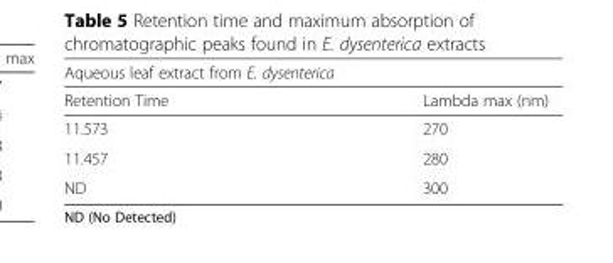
<table><thead><tr><td colspan="2">Aqueous leaf extract from E. dysenterica</td></tr><tr><td>Retention Time</td><td>Lambda max (nm)</td></tr></thead><tbody><tr><td>11.573</td><td>270</td></tr><tr><td>11.457</td><td>280</td></tr><tr><td>ND</td><td>300</td></tr></tbody></table>